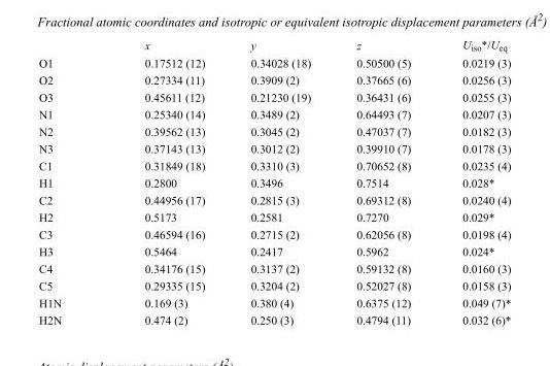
<table><thead><tr><td></td><td>x</td><td>y</td><td>z</td><td>U<sub>iso</sub>*/U<sub>eq</sub></td></tr></thead><tbody><tr><td>O1</td><td>0.17512 (12)</td><td>0.34028 (18)</td><td>0.50500 (5)</td><td>0.0219 (3)</td></tr><tr><td>O2</td><td>0.27334 (11)</td><td>0.3909 (2)</td><td>0.37665 (6)</td><td>0.0256 (3)</td></tr><tr><td>O3</td><td>0.45611 (12)</td><td>0.21230 (19)</td><td>0.36431 (6)</td><td>0.0255 (3)</td></tr><tr><td>N1</td><td>0.25340 (14)</td><td>0.3489 (2)</td><td>0.64493 (7)</td><td>0.0207 (3)</td></tr><tr><td>N2</td><td>0.39562 (13)</td><td>0.3045 (2)</td><td>0.47037 (7)</td><td>0.0182 (3)</td></tr><tr><td>N3</td><td>0.37143 (13)</td><td>0.3012 (2)</td><td>0.39910 (7)</td><td>0.0178 (3)</td></tr><tr><td>C1</td><td>0.31849 (18)</td><td>0.3310 (3)</td><td>0.70652 (8)</td><td>0.0235 (4)</td></tr><tr><td>H1</td><td>0.2800</td><td>0.3496</td><td>0.7514</td><td>0.028*</td></tr><tr><td>C2</td><td>0.44956 (17)</td><td>0.2815 (3)</td><td>0.69312 (8)</td><td>0.0240 (4)</td></tr><tr><td>H2</td><td>0.5173</td><td>0.2581</td><td>0.7270</td><td>0.029*</td></tr><tr><td>C3</td><td>0.46594 (16)</td><td>0.2715 (2)</td><td>0.62056 (8)</td><td>0.0198 (4)</td></tr><tr><td>H3</td><td>0.5464</td><td>0.2417</td><td>0.5962</td><td>0.024*</td></tr><tr><td>C4</td><td>0.34176 (15)</td><td>0.3137 (2)</td><td>0.59132 (8)</td><td>0.0160 (3)</td></tr><tr><td>C5</td><td>0.29335 (15)</td><td>0.3204 (2)</td><td>0.52027 (8)</td><td>0.0158 (3)</td></tr><tr><td>H1N</td><td>0.169 (3)</td><td>0.380 (4)</td><td>0.6375 (12)</td><td>0.049 (7)*</td></tr><tr><td>H2N</td><td>0.474 (2)</td><td>0.250 (3)</td><td>0.4794 (11)</td><td>0.032 (6)*</td></tr></tbody></table>